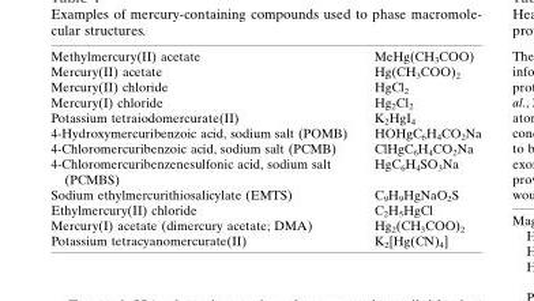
<table><tbody><tr><td>Methylmercury(II) acetate</td><td>MeHg(CH<sub>3</sub>COO)</td></tr><tr><td>Mercury(II) acetate</td><td>Hg(CH<sub>3</sub>COO)<sub>2</sub></td></tr><tr><td>Mercury(II) chloride</td><td>HgCl<sub>2</sub></td></tr><tr><td>Mercury(I) chloride</td><td>Hg<sub>2</sub>Cl<sub>2</sub></td></tr><tr><td>Potassium tetraiodomercurate(II)</td><td>K<sub>2</sub>HgI<sub>4</sub></td></tr><tr><td>4-Hydroxymercuribenzoic acid, sodium salt (POMB)</td><td>HOHgC<sub>6</sub>H<sub>4</sub>CO<sub>2</sub>Na</td></tr><tr><td>4-Chloromercuribenzoic acid, sodium salt (PCMB)</td><td>ClHgC<sub>6</sub>H<sub>4</sub>CO<sub>2</sub>Na</td></tr><tr><td>4-Chloromercuribenzenesulfonic acid, sodium salt (PCMBS)</td><td>HgC<sub>6</sub>H<sub>4</sub>SO<sub>3</sub>Na</td></tr><tr><td>Sodium ethylmercurithiosalicylate (EMTS)</td><td>C<sub>9</sub>H<sub>9</sub>HgNaO<sub>2</sub>S</td></tr><tr><td>Ethylmercury(II) chloride</td><td>C<sub>2</sub>H<sub>5</sub>HgCl</td></tr><tr><td>Mercury(I) acetate (dimercury acetate; DMA)</td><td>Hg<sub>2</sub>(CH<sub>3</sub>COO)<sub>2</sub></td></tr><tr><td>Potassium tetracyanomercurate(II)</td><td>K<sub>2</sub>[Hg(CN)<sub>4</sub>]</td></tr></tbody></table>